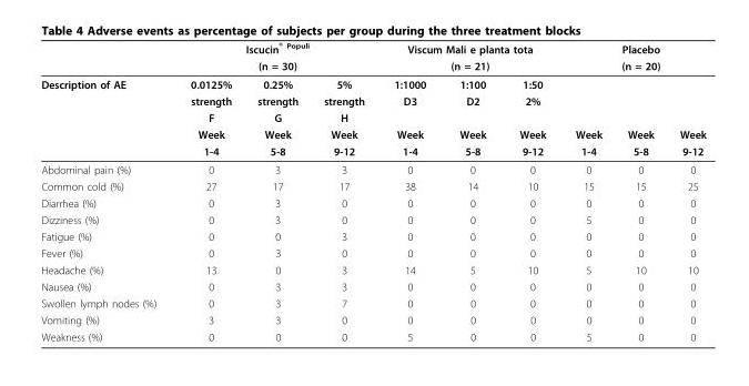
<table><thead><tr><td rowspan="3">Description of AE</td><td rowspan="2" colspan="3">Iscucin <sup>®</sup> Populi (n = 30)</td><td rowspan="2" colspan="3">Viscum Mali e planta tota (n = 21)</td><td rowspan="2" colspan="3">Placebo (n = 20)</td></tr><tr></tr><tr><td>0.0125%</td><td>0.25%</td><td>5%</td><td>1:1000</td><td>1:100</td><td>1:50</td><td></td><td></td><td></td></tr></thead><tbody><tr><td></td><td>strength</td><td>strength</td><td>strength</td><td>D3</td><td>D2</td><td>2%</td><td></td><td></td><td></td></tr><tr><td></td><td>F</td><td>G</td><td>H</td><td></td><td></td><td></td><td></td><td></td><td></td></tr><tr><td></td><td>Week</td><td>Week</td><td>Week</td><td>Week</td><td>Week</td><td>Week</td><td>Week</td><td>Week</td><td>Week</td></tr><tr><td></td><td>1-4</td><td>5-8</td><td>9-12</td><td>1-4</td><td>5-8</td><td>9-12</td><td>1-4</td><td>5-8</td><td>9-12</td></tr><tr><td>Abdominal pain (%)</td><td>0</td><td>3</td><td>3</td><td>0</td><td>0</td><td>0</td><td>0</td><td>0</td><td>0</td></tr><tr><td>Common cold (%)</td><td>27</td><td>17</td><td>17</td><td>38</td><td>14</td><td>10</td><td>15</td><td>15</td><td>25</td></tr><tr><td>Diarrhea (%)</td><td>0</td><td>3</td><td>0</td><td>0</td><td>0</td><td>0</td><td>0</td><td>0</td><td>0</td></tr><tr><td>Dizziness (%)</td><td>0</td><td>3</td><td>0</td><td>0</td><td>0</td><td>0</td><td>5</td><td>0</td><td>0</td></tr><tr><td>Fatigue (%)</td><td>0</td><td>0</td><td>3</td><td>0</td><td>0</td><td>0</td><td>0</td><td>0</td><td>0</td></tr><tr><td>Fever (%)</td><td>0</td><td>3</td><td>0</td><td>0</td><td>0</td><td>0</td><td>0</td><td>0</td><td>0</td></tr><tr><td>Headache (%)</td><td>13</td><td>0</td><td>3</td><td>14</td><td>5</td><td>10</td><td>5</td><td>10</td><td>10</td></tr><tr><td>Nausea (%)</td><td>0</td><td>3</td><td>3</td><td>0</td><td>0</td><td>0</td><td>0</td><td>0</td><td>0</td></tr><tr><td>Swollen lymph nodes (%)</td><td>0</td><td>3</td><td>7</td><td>0</td><td>0</td><td>0</td><td>0</td><td>0</td><td>0</td></tr><tr><td>Vomiting (%)</td><td>3</td><td>3</td><td>0</td><td>0</td><td>0</td><td>0</td><td>0</td><td>0</td><td>0</td></tr><tr><td>Weakness (%)</td><td>0</td><td>0</td><td>0</td><td>5</td><td>0</td><td>0</td><td>5</td><td>0</td><td>0</td></tr></tbody></table>